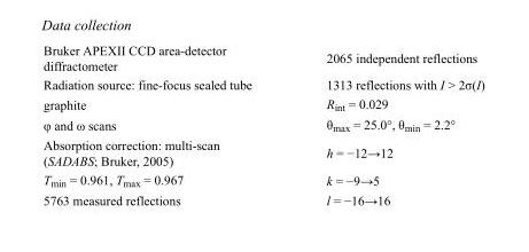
<table><tbody><tr><td>Bruker APEXII CCD area-detector diffractometer</td><td>2065 independent reflections</td></tr><tr><td>Radiation source: fine-focus sealed tube</td><td>1313 reflections with I &gt; 2σ(I)</td></tr><tr><td>graphite</td><td>R<sub>int</sub> = 0.029</td></tr><tr><td>φ and ω scans</td><td>θ<sub>max</sub> = 25.0°, θ<sub>min</sub> = 2.2°</td></tr><tr><td>Absorption correction: multi-scan (SADABS; Bruker, 2005)</td><td>h = −12→12</td></tr><tr><td>T<sub>min</sub> = 0.961, T<sub>max</sub> = 0.967</td><td>k = −9→5</td></tr><tr><td>5763 measured reflections</td><td>l = −16→16</td></tr></tbody></table>